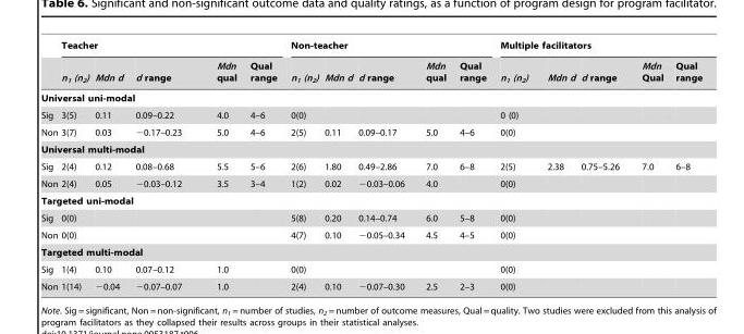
<table><thead><tr><td rowspan="2"></td><td colspan="5">Teacher</td><td colspan="5">Non-teacher</td><td colspan="5">Multiple facilitators</td></tr><tr><td>n<sub>1</sub> (n<sub>2</sub>)</td><td>Mdn d</td><td>d range</td><td>Mdn qual</td><td>Qual range</td><td>n<sub>1</sub> (n<sub>2</sub>)</td><td>Mdn d</td><td>d range</td><td>Mdn qual</td><td>Qual range</td><td>n<sub>1</sub> (n<sub>2</sub>)</td><td>Mdn d</td><td>d range</td><td>Mdn Qual</td><td>Qual range</td></tr></thead><tbody><tr><td colspan="16">Universal uni-modal</td></tr><tr><td>Sig</td><td>3(5)</td><td>0.11</td><td>0.09–0.22</td><td>4.0</td><td>4–6</td><td>0(0)</td><td></td><td></td><td></td><td></td><td>0 (0)</td><td></td><td></td><td></td><td></td></tr><tr><td>Non</td><td>3(7)</td><td>0.03</td><td>−0.17–0.23</td><td>5.0</td><td>4–6</td><td>2(5)</td><td>0.11</td><td>0.09–0.17</td><td>5.0</td><td>4–6</td><td>0(0)</td><td></td><td></td><td></td><td></td></tr><tr><td colspan="16">Universal multi-modal</td></tr><tr><td>Sig</td><td>2(4)</td><td>0.12</td><td>0.08–0.68</td><td>5.5</td><td>5–6</td><td>2(6)</td><td>1.80</td><td>0.49–2.86</td><td>7.0</td><td>6–8</td><td>2(5)</td><td>2.38</td><td>0.75–5.26</td><td>7.0</td><td>6–8</td></tr><tr><td>Non</td><td>2(4)</td><td>0.05</td><td>−0.03–0.12</td><td>3.5</td><td>3–4</td><td>1(2)</td><td>0.02</td><td>−0.03–0.06</td><td>4.0</td><td></td><td>0(0)</td><td></td><td></td><td></td><td></td></tr><tr><td colspan="16">Targeted uni-modal</td></tr><tr><td>Sig</td><td>0(0)</td><td></td><td></td><td></td><td></td><td>5(8)</td><td>0.20</td><td>0.14–0.74</td><td>6.0</td><td>5–8</td><td>0(0)</td><td></td><td></td><td></td><td></td></tr><tr><td>Non</td><td>0(0)</td><td></td><td></td><td></td><td></td><td>4(7)</td><td>0.10</td><td>−0.05–0.34</td><td>4.5</td><td>4–5</td><td>0(0)</td><td></td><td></td><td></td><td></td></tr><tr><td colspan="16">Targeted multi-modal</td></tr><tr><td>Sig</td><td>1(4)</td><td>0.10</td><td>0.07–0.12</td><td>1.0</td><td></td><td>0(0)</td><td></td><td></td><td></td><td></td><td>0(0)</td><td></td><td></td><td></td><td></td></tr><tr><td>Non</td><td>1(14)</td><td>−0.04</td><td>−0.07–0.07</td><td>1.0</td><td></td><td>2(4)</td><td>0.10</td><td>−0.07–0.30</td><td>2.5</td><td>2–3</td><td>0(0)</td><td></td><td></td><td></td><td></td></tr></tbody></table>